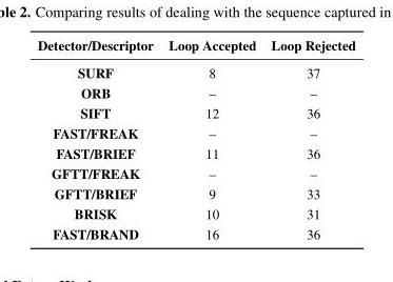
<table><thead><tr><td>Detector/Descriptor</td><td>Loop Accepted</td><td>Loop Rejected</td></tr></thead><tbody><tr><td>SURF</td><td>8</td><td>37</td></tr><tr><td>ORB</td><td>–</td><td>–</td></tr><tr><td>SIFT</td><td>12</td><td>36</td></tr><tr><td>FAST/FREAK</td><td>–</td><td>–</td></tr><tr><td>FAST/BRIEF</td><td>11</td><td>36</td></tr><tr><td>GFTT/FREAK</td><td>–</td><td>–</td></tr><tr><td>GFTT/BRIEF</td><td>9</td><td>33</td></tr><tr><td>BRISK</td><td>10</td><td>31</td></tr><tr><td>FAST/BRAND</td><td>16</td><td>36</td></tr></tbody></table>